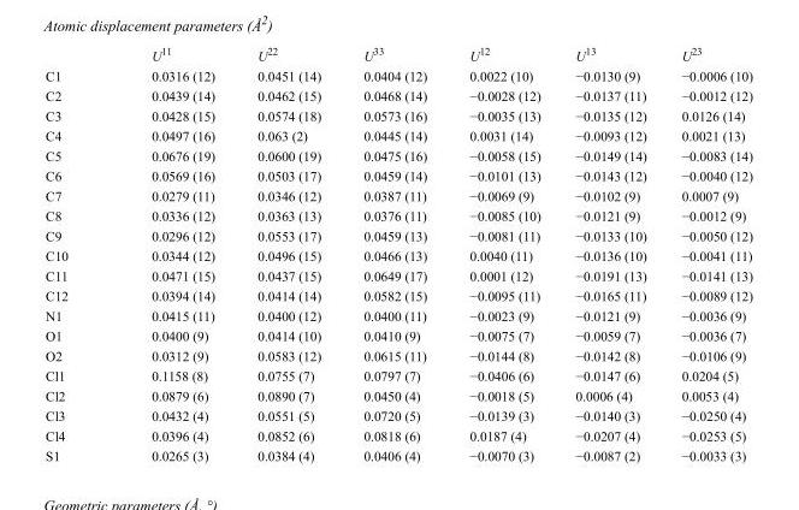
<table><thead><tr><td></td><td>U<sup>11</sup></td><td>U<sup>22</sup></td><td>U<sup>33</sup></td><td>U<sup>12</sup></td><td>U<sup>13</sup></td><td>U<sup>23</sup></td></tr></thead><tbody><tr><td>C1</td><td>0.0316 (12)</td><td>0.0451 (14)</td><td>0.0404 (12)</td><td>0.0022 (10)</td><td>−0.0130 (9)</td><td>−0.0006 (10)</td></tr><tr><td>C2</td><td>0.0439 (14)</td><td>0.0462 (15)</td><td>0.0468 (14)</td><td>−0.0028 (12)</td><td>−0.0137 (11)</td><td>−0.0012 (12)</td></tr><tr><td>C3</td><td>0.0428 (15)</td><td>0.0574 (18)</td><td>0.0573 (16)</td><td>−0.0035 (13)</td><td>−0.0135 (12)</td><td>0.0126 (14)</td></tr><tr><td>C4</td><td>0.0497 (16)</td><td>0.063 (2)</td><td>0.0445 (14)</td><td>0.0031 (14)</td><td>−0.0093 (12)</td><td>0.0021 (13)</td></tr><tr><td>C5</td><td>0.0676 (19)</td><td>0.0600 (19)</td><td>0.0475 (16)</td><td>−0.0058 (15)</td><td>−0.0149 (14)</td><td>−0.0083 (14)</td></tr><tr><td>C6</td><td>0.0569 (16)</td><td>0.0503 (17)</td><td>0.0459 (14)</td><td>−0.0101 (13)</td><td>−0.0143 (12)</td><td>−0.0040 (12)</td></tr><tr><td>C7</td><td>0.0279 (11)</td><td>0.0346 (12)</td><td>0.0387 (11)</td><td>−0.0069 (9)</td><td>−0.0102 (9)</td><td>0.0007 (9)</td></tr><tr><td>C8</td><td>0.0336 (12)</td><td>0.0363 (13)</td><td>0.0376 (11)</td><td>−0.0085 (10)</td><td>−0.0121 (9)</td><td>−0.0012 (9)</td></tr><tr><td>C9</td><td>0.0296 (12)</td><td>0.0553 (17)</td><td>0.0459 (13)</td><td>−0.0081 (11)</td><td>−0.0133 (10)</td><td>−0.0050 (12)</td></tr><tr><td>C10</td><td>0.0344 (12)</td><td>0.0496 (15)</td><td>0.0466 (13)</td><td>0.0040 (11)</td><td>−0.0136 (10)</td><td>−0.0041 (11)</td></tr><tr><td>C11</td><td>0.0471 (15)</td><td>0.0437 (15)</td><td>0.0649 (17)</td><td>0.0001 (12)</td><td>−0.0191 (13)</td><td>−0.0141 (13)</td></tr><tr><td>C12</td><td>0.0394 (14)</td><td>0.0414 (14)</td><td>0.0582 (15)</td><td>−0.0095 (11)</td><td>−0.0165 (11)</td><td>−0.0089 (12)</td></tr><tr><td>N1</td><td>0.0415 (11)</td><td>0.0400 (12)</td><td>0.0400 (11)</td><td>−0.0023 (9)</td><td>−0.0121 (9)</td><td>−0.0036 (9)</td></tr><tr><td>O1</td><td>0.0400 (9)</td><td>0.0414 (10)</td><td>0.0410 (9)</td><td>−0.0075 (7)</td><td>−0.0059 (7)</td><td>−0.0036 (7)</td></tr><tr><td>O2</td><td>0.0312 (9)</td><td>0.0583 (12)</td><td>0.0615 (11)</td><td>−0.0144 (8)</td><td>−0.0142 (8)</td><td>−0.0106 (9)</td></tr><tr><td>Cl1</td><td>0.1158 (8)</td><td>0.0755 (7)</td><td>0.0797 (7)</td><td>−0.0406 (6)</td><td>−0.0147 (6)</td><td>0.0204 (5)</td></tr><tr><td>Cl2</td><td>0.0879 (6)</td><td>0.0890 (7)</td><td>0.0450 (4)</td><td>−0.0018 (5)</td><td>0.0006 (4)</td><td>0.0053 (4)</td></tr><tr><td>Cl3</td><td>0.0432 (4)</td><td>0.0551 (5)</td><td>0.0720 (5)</td><td>−0.0139 (3)</td><td>−0.0140 (3)</td><td>−0.0250 (4)</td></tr><tr><td>Cl4</td><td>0.0396 (4)</td><td>0.0852 (6)</td><td>0.0818 (6)</td><td>0.0187 (4)</td><td>−0.0207 (4)</td><td>−0.0253 (5)</td></tr><tr><td>S1</td><td>0.0265 (3)</td><td>0.0384 (4)</td><td>0.0406 (4)</td><td>−0.0070 (3)</td><td>−0.0087 (2)</td><td>−0.0033 (3)</td></tr></tbody></table>